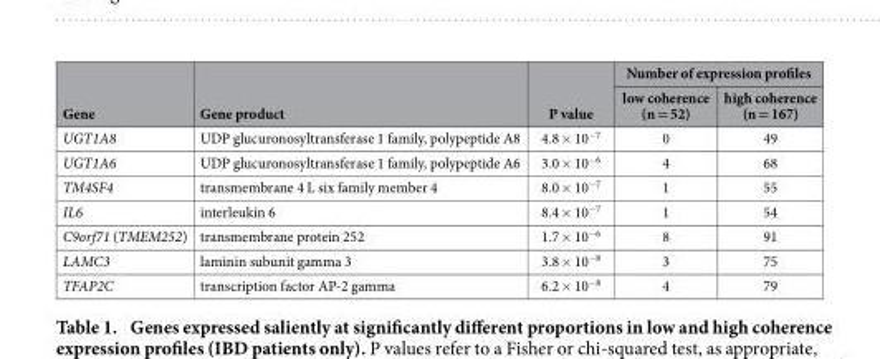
<table><thead><tr><td rowspan="2">Gene</td><td rowspan="2">Gene product</td><td rowspan="2">P value</td><td colspan="2">Number of expression profiles</td></tr><tr><td>low coherence (n = 52)</td><td>high coherence (n = 167)</td></tr></thead><tbody><tr><td>UGT1A8</td><td>UDP glucuronosyltransferase 1 family, polypeptide A8</td><td>4.8 × 10<sup>−7</sup></td><td>0</td><td>49</td></tr><tr><td>UGT1A6</td><td>UDP glucuronosyltransferase 1 family, polypeptide A6</td><td>3.0 × 10<sup>−6</sup></td><td>4</td><td>68</td></tr><tr><td>TM4SF4</td><td>transmembrane 4 L six family member 4</td><td>8.0 × 10<sup>−7</sup></td><td>1</td><td>55</td></tr><tr><td>IL6</td><td>interleukin 6</td><td>8.4 × 10<sup>−7</sup></td><td>1</td><td>54</td></tr><tr><td>C9orf71 (TMEM252)</td><td>transmembrane protein 252</td><td>1.7 × 10<sup>−6</sup></td><td>8</td><td>91</td></tr><tr><td>LAMC3</td><td>laminin subunit gamma 3</td><td>3.8 × 10<sup>−8</sup></td><td>3</td><td>75</td></tr><tr><td>TFAP2C</td><td>transcription factor AP-2 gamma</td><td>6.2 × 10<sup>−8</sup></td><td>4</td><td>79</td></tr></tbody></table>